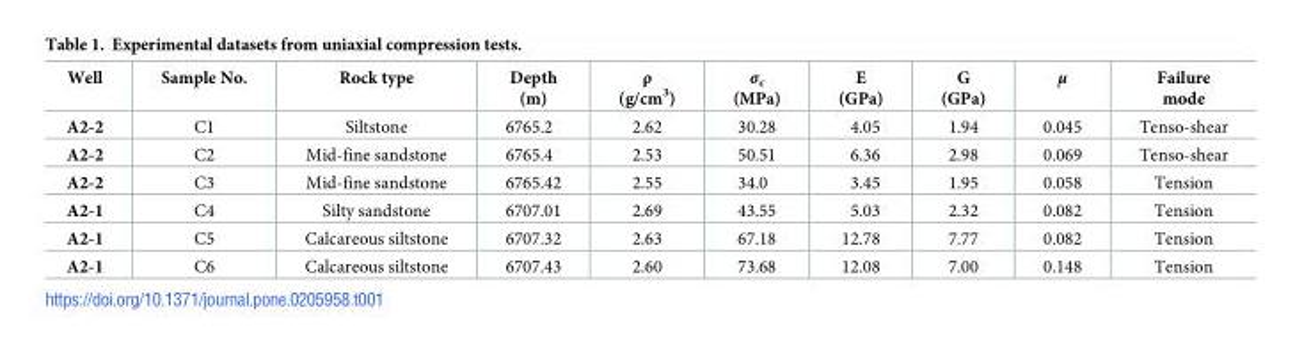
<table><thead><tr><td>Well</td><td>Sample No.</td><td>Rock type</td><td>Depth (m)</td><td>ρ (g/cm<sup>3</sup>)</td><td>σ<sub>c</sub> (MPa)</td><td>E (GPa)</td><td>G (GPa)</td><td>μ</td><td>Failure mode</td></tr></thead><tbody><tr><td>A2-2</td><td>C1</td><td>Siltstone</td><td>6765.2</td><td>2.62</td><td>30.28</td><td>4.05</td><td>1.94</td><td>0.045</td><td>Tenso-shear</td></tr><tr><td>A2-2</td><td>C2</td><td>Mid-fine sandstone</td><td>6765.4</td><td>2.53</td><td>50.51</td><td>6.36</td><td>2.98</td><td>0.069</td><td>Tenso-shear</td></tr><tr><td>A2-2</td><td>C3</td><td>Mid-fine sandstone</td><td>6765.42</td><td>2.55</td><td>34.0</td><td>3.45</td><td>1.95</td><td>0.058</td><td>Tension</td></tr><tr><td>A2-1</td><td>C4</td><td>Silty sandstone</td><td>6707.01</td><td>2.69</td><td>43.55</td><td>5.03</td><td>2.32</td><td>0.082</td><td>Tension</td></tr><tr><td>A2-1</td><td>C5</td><td>Calcareous siltstone</td><td>6707.32</td><td>2.63</td><td>67.18</td><td>12.78</td><td>7.77</td><td>0.082</td><td>Tension</td></tr><tr><td>A2-1</td><td>C6</td><td>Calcareous siltstone</td><td>6707.43</td><td>2.60</td><td>73.68</td><td>12.08</td><td>7.00</td><td>0.148</td><td>Tension</td></tr></tbody></table>